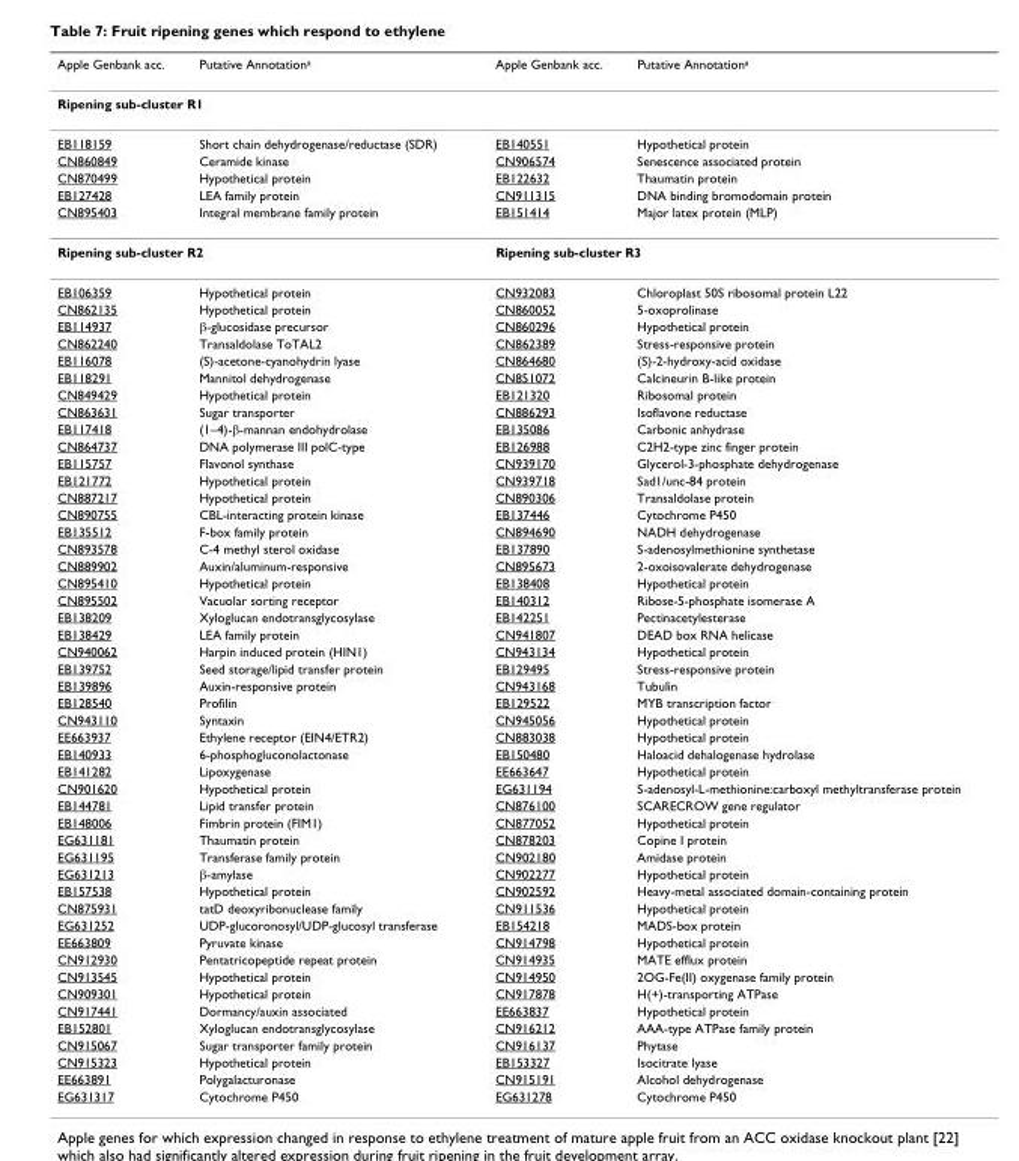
<table><thead><tr><td>Apple Genbank acc.</td><td>Putative Annotation<sup>a</sup></td><td>Apple Genbank acc.</td><td>Putative Annotation<sup>a</sup></td></tr></thead><tbody><tr><td colspan="4">Ripening sub-cluster R1</td></tr><tr><td>EB118159</td><td>Short chain dehydrogenase/reductase (SDR)</td><td>EB140551</td><td>Hypothetical protein</td></tr><tr><td>CN860849</td><td>Ceramide kinase</td><td>CN906574</td><td>Senescence associated protein</td></tr><tr><td>CN870499</td><td>Hypothetical protein</td><td>EB122632</td><td>Thaumatin protein</td></tr><tr><td>EB127428</td><td>LEA family protein</td><td>CN911315</td><td>DNA binding bromodomain protein</td></tr><tr><td>CN895403</td><td>Integral membrane family protein</td><td>EB151414</td><td>Major latex protein (MLP)</td></tr><tr><td colspan="2">Ripening sub-cluster R2</td><td colspan="2">Ripening sub-cluster R3</td></tr><tr><td>EB106359</td><td>Hypothetical protein</td><td>CN932083</td><td>Chloroplast 50S ribosomal protein L22</td></tr><tr><td>CN862135</td><td>Hypothetical protein</td><td>CN860052</td><td>5-oxoprolinase</td></tr><tr><td>EB114937</td><td>β-glucosidase precursor</td><td>CN860296</td><td>Hypothetical protein</td></tr><tr><td>CN862240</td><td>Transaldolase ToTAL2</td><td>CN862389</td><td>Stress-responsive protein</td></tr><tr><td>EB116078</td><td>(S)-acetone-cyanohydrin lyase</td><td>CN864680</td><td>(S)-2-hydroxy-acid oxidase</td></tr><tr><td>EB118291</td><td>Mannitol dehydrogenase</td><td>CN851072</td><td>Calcineurin B-like protein</td></tr><tr><td>CN849429</td><td>Hypothetical protein</td><td>EB121320</td><td>Ribosomal protein</td></tr><tr><td>CN863631</td><td>Sugar transporter</td><td>CN886293</td><td>Isoflavone reductase</td></tr><tr><td>EB117418</td><td>(1–4)-β-mannan endohydrolase</td><td>EB135086</td><td>Carbonic anhydrase</td></tr><tr><td>CN864737</td><td>DNA polymerase III polC-type</td><td>EB126988</td><td>C2H2-type zinc finger protein</td></tr><tr><td>EB115757</td><td>Flavonol synthase</td><td>CN939170</td><td>Glycerol-3-phosphate dehydrogenase</td></tr><tr><td>EB121772</td><td>Hypothetical protein</td><td>CN939718</td><td>Sad1/unc-84 protein</td></tr><tr><td>CN887217</td><td>Hypothetical protein</td><td>CN890306</td><td>Transaldolase protein</td></tr><tr><td>CN890755</td><td>CBL-interacting protein kinase</td><td>EB137446</td><td>Cytochrome P450</td></tr><tr><td>EB135512</td><td>F-box family protein</td><td>CN894690</td><td>NADH dehydrogenase</td></tr><tr><td>CN893578</td><td>C-4 methyl sterol oxidase</td><td>EB137890</td><td>S-adenosylmethionine synthetase</td></tr><tr><td>CN889902</td><td>Auxin/aluminum-responsive</td><td>CN895673</td><td>2-oxoisovalerate dehydrogenase</td></tr><tr><td>CN895410</td><td>Hypothetical protein</td><td>EB138408</td><td>Hypothetical protein</td></tr><tr><td>CN895502</td><td>Vacuolar sorting receptor</td><td>EB140312</td><td>Ribose-5-phosphate isomerase A</td></tr><tr><td>EB138209</td><td>Xyloglucan endotransglycosylase</td><td>EB142251</td><td>Pectinacetylesterase</td></tr><tr><td>EB138429</td><td>LEA family protein</td><td>CN941807</td><td>DEAD box RNA helicase</td></tr><tr><td>CN940062</td><td>Harpin induced protein (HIN1)</td><td>CN943134</td><td>Hypothetical protein</td></tr><tr><td>EB139752</td><td>Seed storage/lipid transfer protein</td><td>EB129495</td><td>Stress-responsive protein</td></tr><tr><td>EB139896</td><td>Auxin-responsive protein</td><td>CN943168</td><td>Tubulin</td></tr><tr><td>EB128540</td><td>Profilin</td><td>EB129522</td><td>MYB transcription factor</td></tr><tr><td>CN943110</td><td>Syntaxin</td><td>CN945056</td><td>Hypothetical protein</td></tr><tr><td>EE663937</td><td>Ethylene receptor (EIN4/ETR2)</td><td>CN883038</td><td>Hypothetical protein</td></tr><tr><td>EB140933</td><td>6-phosphogluconolactonase</td><td>EB150480</td><td>Haloacid dehalogenase hydrolase</td></tr><tr><td>EB141282</td><td>Lipoxygenase</td><td>EE663647</td><td>Hypothetical protein</td></tr><tr><td>CN901620</td><td>Hypothetical protein</td><td>EG631194</td><td>S-adenosyl-L-methionine:carboxyl methyltransferase protein</td></tr><tr><td>EB144781</td><td>Lipid transfer protein</td><td>CN876100</td><td>SCARECROW gene regulator</td></tr><tr><td>EB148006</td><td>Fimbrin protein (FIM1)</td><td>CN877052</td><td>Hypothetical protein</td></tr><tr><td>EG631181</td><td>Thaumatin protein</td><td>CN878203</td><td>Copine I protein</td></tr><tr><td>EG631195</td><td>Transferase family protein</td><td>CN902180</td><td>Amidase protein</td></tr><tr><td>EG631213</td><td>β-amylase</td><td>CN902277</td><td>Hypothetical protein</td></tr><tr><td>EB157538</td><td>Hypothetical protein</td><td>CN902592</td><td>Heavy-metal associated domain-containing protein</td></tr><tr><td>CN875931</td><td>tatD deoxyribonuclease family</td><td>CN911536</td><td>Hypothetical protein</td></tr><tr><td>EG631252</td><td>UDP-glucoronosyl/UDP-glucosyl transferase</td><td>EB154218</td><td>MADS-box protein</td></tr><tr><td>EE663809</td><td>Pyruvate kinase</td><td>CN914798</td><td>Hypothetical protein</td></tr><tr><td>CN912930</td><td>Pentatricopeptide repeat protein</td><td>CN914935</td><td>MATE efflux protein</td></tr><tr><td>CN913545</td><td>Hypothetical protein</td><td>CN914950</td><td>2OG-Fe(II) oxygenase family protein</td></tr><tr><td>CN909301</td><td>Hypothetical protein</td><td>CN917878</td><td>H(+)-transporting ATPase</td></tr><tr><td>CN917441</td><td>Dormancy/auxin associated</td><td>EE663837</td><td>Hypothetical protein</td></tr><tr><td>EB152801</td><td>Xyloglucan endotransglycosylase</td><td>CN916212</td><td>AAA-type ATPase family protein</td></tr><tr><td>CN915067</td><td>Sugar transporter family protein</td><td>CN916137</td><td>Phytase</td></tr><tr><td>CN915323</td><td>Hypothetical protein</td><td>EB153327</td><td>Isocitrate lyase</td></tr><tr><td>EE663891</td><td>Polygalacturonase</td><td>CN915191</td><td>Alcohol dehydrogenase</td></tr><tr><td>EG631317</td><td>Cytochrome P450</td><td>EG631278</td><td>Cytochrome P450</td></tr></tbody></table>